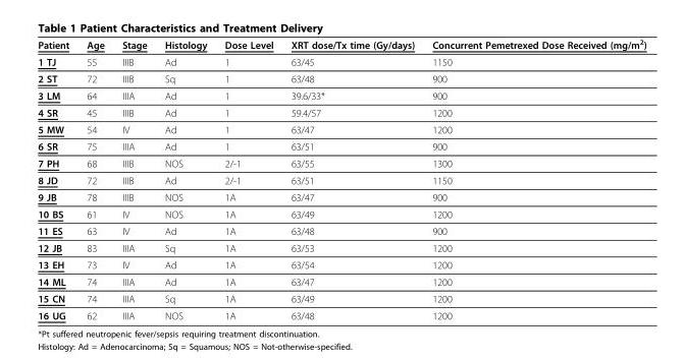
<table><thead><tr><td>Patient</td><td>Age</td><td>Stage</td><td>Histology</td><td>Dose Level</td><td>XRT dose/Tx time (Gy/days)</td><td>Concurrent Pemetrexed Dose Received (mg/m<sup>2</sup>)</td></tr></thead><tbody><tr><td>1 TJ</td><td>55</td><td>IIIB</td><td>Ad</td><td>1</td><td>63/45</td><td>1150</td></tr><tr><td>2 ST</td><td>72</td><td>IIIB</td><td>Sq</td><td>1</td><td>63/48</td><td>900</td></tr><tr><td>3 LM</td><td>64</td><td>IIIA</td><td>Ad</td><td>1</td><td>39.6/33*</td><td>900</td></tr><tr><td>4 SR</td><td>45</td><td>IIIB</td><td>Ad</td><td>1</td><td>59.4/57</td><td>1200</td></tr><tr><td>5 MW</td><td>54</td><td>IV</td><td>Ad</td><td>1</td><td>63/47</td><td>1200</td></tr><tr><td>6 SR</td><td>75</td><td>IIIA</td><td>Ad</td><td>1</td><td>63/51</td><td>900</td></tr><tr><td>7 PH</td><td>68</td><td>IIIB</td><td>NOS</td><td>2/-1</td><td>63/55</td><td>1300</td></tr><tr><td>8 JD</td><td>72</td><td>IIIB</td><td>Ad</td><td>2/-1</td><td>63/51</td><td>1150</td></tr><tr><td>9 JB</td><td>78</td><td>IIIB</td><td>NOS</td><td>1A</td><td>63/47</td><td>900</td></tr><tr><td>10 BS</td><td>61</td><td>IV</td><td>NOS</td><td>1A</td><td>63/49</td><td>1200</td></tr><tr><td>11 ES</td><td>63</td><td>IV</td><td>Ad</td><td>1A</td><td>63/48</td><td>900</td></tr><tr><td>12 JB</td><td>83</td><td>IIIA</td><td>Sq</td><td>1A</td><td>63/53</td><td>1200</td></tr><tr><td>13 EH</td><td>73</td><td>IV</td><td>Ad</td><td>1A</td><td>63/54</td><td>1200</td></tr><tr><td>14 ML</td><td>74</td><td>IIIA</td><td>Ad</td><td>1A</td><td>63/47</td><td>1200</td></tr><tr><td>15 CN</td><td>74</td><td>IIIA</td><td>Sq</td><td>1A</td><td>63/49</td><td>1200</td></tr><tr><td>16 UG</td><td>62</td><td>IIIA</td><td>NOS</td><td>1A</td><td>63/48</td><td>1200</td></tr></tbody></table>